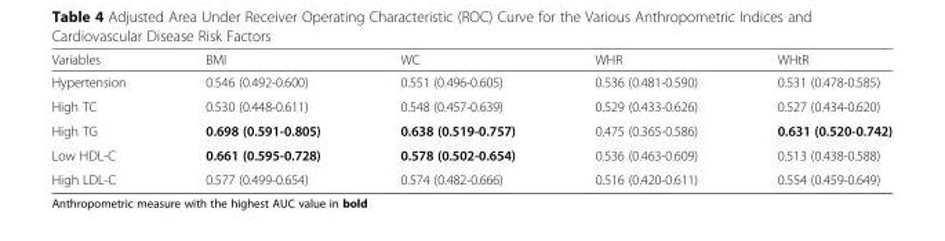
<table><thead><tr><td>Variables</td><td>BMI</td><td>WC</td><td>WHR</td><td>WHtR</td></tr></thead><tbody><tr><td>Hypertension</td><td>0.546 (0.492-0.600)</td><td>0.551 (0.496-0.605)</td><td>0.536 (0.481-0.590)</td><td>0.531 (0.478-0.585)</td></tr><tr><td>High TC</td><td>0.530 (0.448-0.611)</td><td>0.548 (0.457-0.639)</td><td>0.529 (0.433-0.626)</td><td>0.527 (0.434-0.620)</td></tr><tr><td>High TG</td><td>0.698 (0.591-0.805)</td><td>0.638 (0.519-0.757)</td><td>0.475 (0.365-0.586)</td><td>0.631 (0.520-0.742)</td></tr><tr><td>Low HDL-C</td><td>0.661 (0.595-0.728)</td><td>0.578 (0.502-0.654)</td><td>0.536 (0.463-0.609)</td><td>0.513 (0.438-0.588)</td></tr><tr><td>High LDL-C</td><td>0.577 (0.499-0.654)</td><td>0.574 (0.482-0.666)</td><td>0.516 (0.420-0.611)</td><td>0.554 (0.459-0.649)</td></tr></tbody></table>